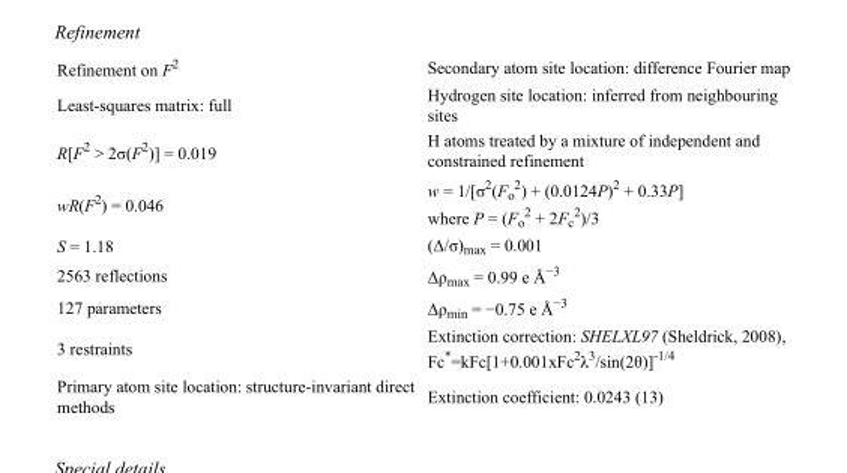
<table><tbody><tr><td>Refinement on F<sup>2</sup></td><td>Secondary atom site location: difference Fourier map</td></tr><tr><td>Least-squares matrix: full</td><td>Hydrogen site location: inferred from neighbouring sites</td></tr><tr><td>R[F<sup>2</sup> &gt; 2σ(F<sup>2</sup>)] = 0.019</td><td>H atoms treated by a mixture of independent and constrained refinement</td></tr><tr><td>wR(F<sup>2</sup>) = 0.046</td><td>w = 1/[σ<sup>2</sup>(F<sub>o</sub> <sup>2</sup>) + (0.0124P)<sup>2</sup> + 0.33P] where P = (F<sub>o</sub> <sup>2</sup> + 2F<sub>c</sub> <sup>2</sup>)/3</td></tr><tr><td>S = 1.18</td><td>(Δ/σ)<sub>max</sub> = 0.001</td></tr><tr><td>2563 reflections</td><td>Δρ<sub>max</sub> = 0.99 e Å<sup>−3</sup></td></tr><tr><td>127 parameters</td><td>Δρ<sub>min</sub> = −0.75 e Å<sup>−3</sup></td></tr><tr><td>3 restraints</td><td>Extinction correction: SHELXL97 (Sheldrick, 2008), Fc*=kFc[1+0.001xFc<sup>2</sup>λ<sup>3</sup>/sin(2θ)]<sup>-1/4</sup></td></tr><tr><td>Primary atom site location: structure-invariant direct methods</td><td>Extinction coefficient: 0.0243 (13)</td></tr></tbody></table>